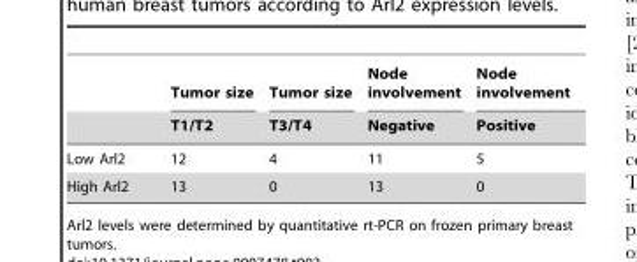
<table><thead><tr><td rowspan="2"></td><td rowspan="2">Tumor size T1/T2</td><td rowspan="2">Tumor size T3/T4</td><td rowspan="2">Node involvement Negative</td><td rowspan="2">Node involvement Positive</td></tr><tr></tr></thead><tbody><tr><td>Low Arl2</td><td>12</td><td>4</td><td>11</td><td>5</td></tr><tr><td>High Arl2</td><td>13</td><td>0</td><td>13</td><td>0</td></tr></tbody></table>